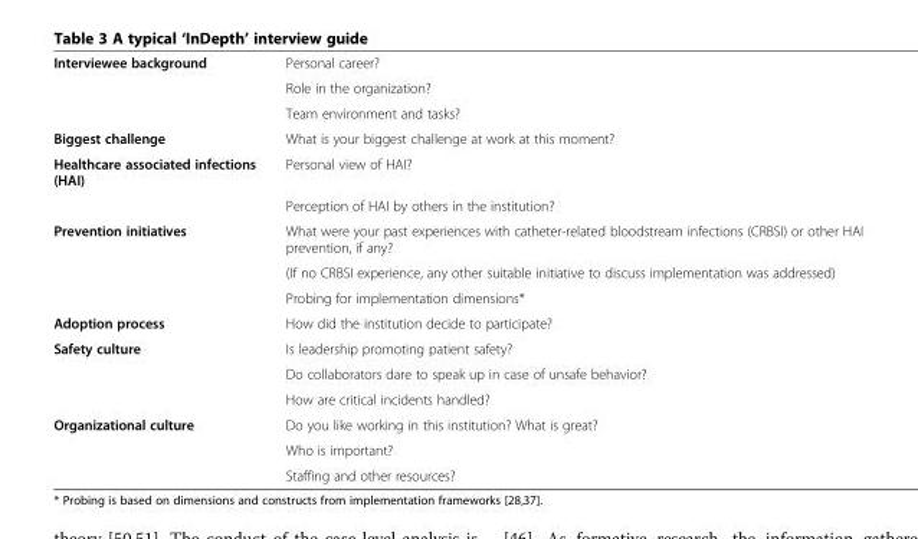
<table><tbody><tr><td rowspan="3">Interviewee background</td><td>Personal career?</td></tr><tr><td>Role in the organization?</td></tr><tr><td>Team environment and tasks?</td></tr><tr><td>Biggest challenge</td><td>What is your biggest challenge at work at this moment?</td></tr><tr><td rowspan="2">Healthcare associated infections (HAI)</td><td>Personal view of HAI?</td></tr><tr><td>Perception of HAI by others in the institution?</td></tr><tr><td rowspan="3">Prevention initiatives</td><td>What were your past experiences with catheter-related bloodstream infections (CRBSI) or other HAI prevention, if any?</td></tr><tr><td>(If no CRBSI experience, any other suitable initiative to discuss implementation was addressed)</td></tr><tr><td>Probing for implementation dimensions*</td></tr><tr><td>Adoption process</td><td>How did the institution decide to participate?</td></tr><tr><td rowspan="3">Safety culture</td><td>Is leadership promoting patient safety?</td></tr><tr><td>Do collaborators dare to speak up in case of unsafe behavior?</td></tr><tr><td>How are critical incidents handled?</td></tr><tr><td rowspan="3">Organizational culture</td><td>Do you like working in this institution? What is great?</td></tr><tr><td>Who is important?</td></tr><tr><td>Staffing and other resources?</td></tr></tbody></table>